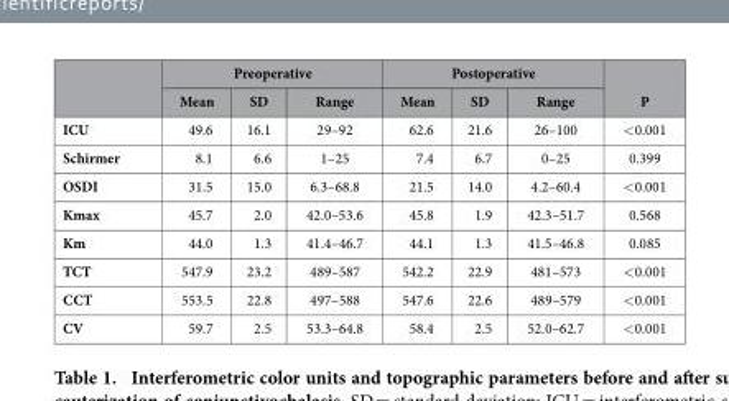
<table><thead><tr><td rowspan="2"></td><td colspan="3">Preoperative</td><td colspan="3">Postoperative</td><td rowspan="2">P</td></tr><tr><td>Mean</td><td>SD</td><td>Range</td><td>Mean</td><td>SD</td><td>Range</td></tr></thead><tbody><tr><td>ICU</td><td>49.6</td><td>16.1</td><td>29–92</td><td>62.6</td><td>21.6</td><td>26–100</td><td>&lt;0.001</td></tr><tr><td>Schirmer</td><td>8.1</td><td>6.6</td><td>1–25</td><td>7.4</td><td>6.7</td><td>0–25</td><td>0.399</td></tr><tr><td>OSDI</td><td>31.5</td><td>15.0</td><td>6.3–68.8</td><td>21.5</td><td>14.0</td><td>4.2–60.4</td><td>&lt;0.001</td></tr><tr><td>Kmax</td><td>45.7</td><td>2.0</td><td>42.0–53.6</td><td>45.8</td><td>1.9</td><td>42.3–51.7</td><td>0.568</td></tr><tr><td>Km</td><td>44.0</td><td>1.3</td><td>41.4–46.7</td><td>44.1</td><td>1.3</td><td>41.5–46.8</td><td>0.085</td></tr><tr><td>TCT</td><td>547.9</td><td>23.2</td><td>489–587</td><td>542.2</td><td>22.9</td><td>481–573</td><td>&lt;0.001</td></tr><tr><td>CCT</td><td>553.5</td><td>22.8</td><td>497–588</td><td>547.6</td><td>22.6</td><td>489–579</td><td>&lt;0.001</td></tr><tr><td>CV</td><td>59.7</td><td>2.5</td><td>53.3–64.8</td><td>58.4</td><td>2.5</td><td>52.0–62.7</td><td>&lt;0.001</td></tr></tbody></table>